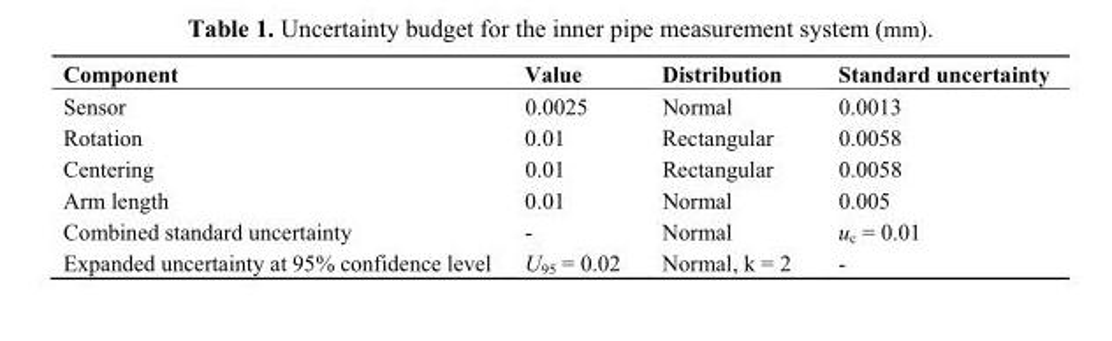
<table><thead><tr><td>Component</td><td>Value</td><td>Distribution</td><td>Standard uncertainty</td></tr></thead><tbody><tr><td>Sensor</td><td>0.0025</td><td>Normal</td><td>0.0013</td></tr><tr><td>Rotation</td><td>0.01</td><td>Rectangular</td><td>0.0058</td></tr><tr><td>Centering</td><td>0.01</td><td>Rectangular</td><td>0.0058</td></tr><tr><td>Arm length</td><td>0.01</td><td>Normal</td><td>0.005</td></tr><tr><td>Combined standard uncertainty</td><td>-</td><td>Normal</td><td>u<sub>c</sub> = 0.01</td></tr><tr><td>Expanded uncertainty at 95% confidence level</td><td>U<sub>95</sub> = 0.02</td><td>Normal, k = 2</td><td>-</td></tr></tbody></table>